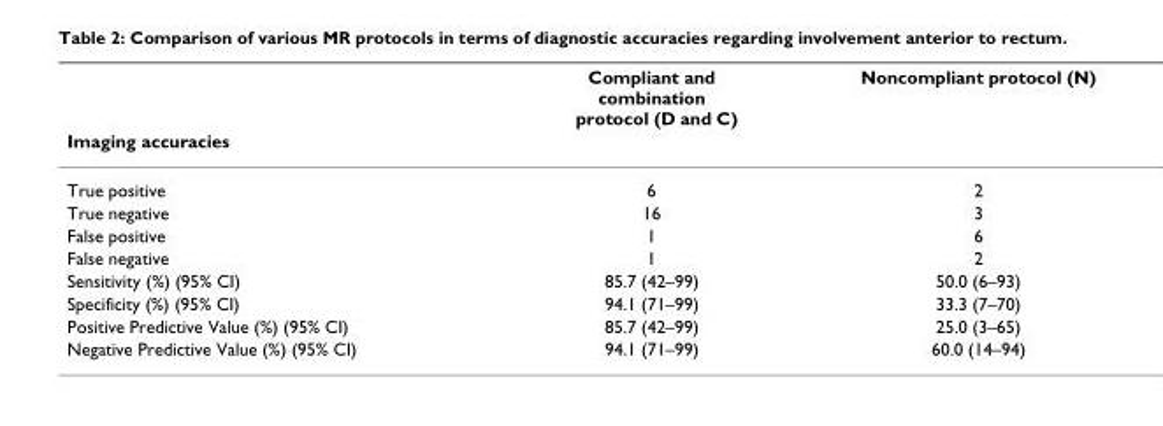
<table><thead><tr><td rowspan="2">Imaging accuracies</td><td rowspan="2">Compliant and combination protocol (D and C)</td><td rowspan="2">Noncompliant protocol (N)</td></tr><tr></tr></thead><tbody><tr><td>True positive</td><td>6</td><td>2</td></tr><tr><td>True negative</td><td>16</td><td>3</td></tr><tr><td>False positive</td><td>1</td><td>6</td></tr><tr><td>False negative</td><td>1</td><td>2</td></tr><tr><td>Sensitivity (%) (95% CI)</td><td>85.7 (42–99)</td><td>50.0 (6–93)</td></tr><tr><td>Specificity (%) (95% CI)</td><td>94.1 (71–99)</td><td>33.3 (7–70)</td></tr><tr><td>Positive Predictive Value (%) (95% CI)</td><td>85.7 (42–99)</td><td>25.0 (3–65)</td></tr><tr><td>Negative Predictive Value (%) (95% CI)</td><td>94.1 (71–99)</td><td>60.0 (14–94)</td></tr></tbody></table>